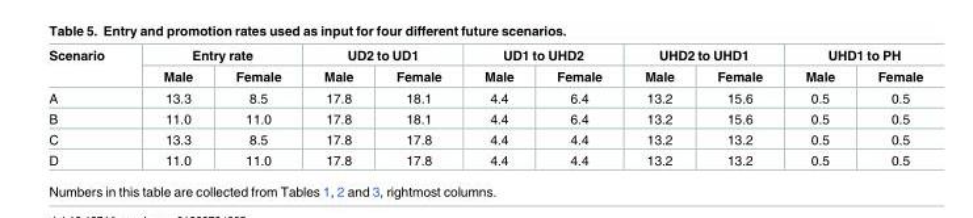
<table><thead><tr><td rowspan="2">Scenario</td><td colspan="2">Entry rate</td><td colspan="2">UD2 to UD1</td><td colspan="2">UD1 to UHD2</td><td colspan="2">UHD2 to UHD1</td><td colspan="2">UHD1 to PH</td></tr><tr><td>Male</td><td>Female</td><td>Male</td><td>Female</td><td>Male</td><td>Female</td><td>Male</td><td>Female</td><td>Male</td><td>Female</td></tr></thead><tbody><tr><td>A</td><td>13.3</td><td>8.5</td><td>17.8</td><td>18.1</td><td>4.4</td><td>6.4</td><td>13.2</td><td>15.6</td><td>0.5</td><td>0.5</td></tr><tr><td>B</td><td>11.0</td><td>11.0</td><td>17.8</td><td>18.1</td><td>4.4</td><td>6.4</td><td>13.2</td><td>15.6</td><td>0.5</td><td>0.5</td></tr><tr><td>C</td><td>13.3</td><td>8.5</td><td>17.8</td><td>17.8</td><td>4.4</td><td>4.4</td><td>13.2</td><td>13.2</td><td>0.5</td><td>0.5</td></tr><tr><td>D</td><td>11.0</td><td>11.0</td><td>17.8</td><td>17.8</td><td>4.4</td><td>4.4</td><td>13.2</td><td>13.2</td><td>0.5</td><td>0.5</td></tr></tbody></table>